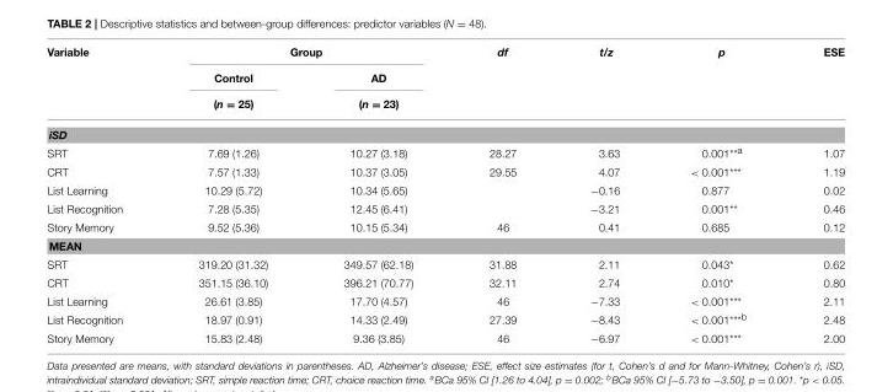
<table><thead><tr><td rowspan="3">Variable</td><td colspan="2">Group</td><td rowspan="3">df</td><td rowspan="3">t/z</td><td rowspan="3">p</td><td rowspan="3">ESE</td></tr><tr><td rowspan="2">Control (n = 25)</td><td rowspan="2">AD (n = 23)</td></tr><tr></tr></thead><tbody><tr><td colspan="7">iSD</td></tr><tr><td>SRT</td><td>7.69 (1.26)</td><td>10.27 (3.18)</td><td>28.27</td><td>3.63</td><td>0.001<sup>**a</sup></td><td>1.07</td></tr><tr><td>CRT</td><td>7.57 (1.33)</td><td>10.37 (3.05)</td><td>29.55</td><td>4.07</td><td>&lt; 0.001***</td><td>1.19</td></tr><tr><td>List Learning</td><td>10.29 (5.72)</td><td>10.34 (5.65)</td><td></td><td>−0.16</td><td>0.877</td><td>0.02</td></tr><tr><td>List Recognition</td><td>7.28 (5.35)</td><td>12.45 (6.41)</td><td></td><td>−3.21</td><td>0.001**</td><td>0.46</td></tr><tr><td>Story Memory</td><td>9.52 (5.36)</td><td>10.15 (5.34)</td><td>46</td><td>0.41</td><td>0.685</td><td>0.12</td></tr><tr><td colspan="7">MEAN</td></tr><tr><td>SRT</td><td>319.20 (31.32)</td><td>349.57 (62.18)</td><td>31.88</td><td>2.11</td><td>0.043*</td><td>0.62</td></tr><tr><td>CRT</td><td>351.15 (36.10)</td><td>396.21 (70.77)</td><td>32.11</td><td>2.74</td><td>0.010*</td><td>0.80</td></tr><tr><td>List Learning</td><td>26.61 (3.85)</td><td>17.70 (4.57)</td><td>46</td><td>−7.33</td><td>&lt; 0.001***</td><td>2.11</td></tr><tr><td>List Recognition</td><td>18.97 (0.91)</td><td>14.33 (2.49)</td><td>27.39</td><td>−8.43</td><td>&lt; 0.001<sup>***b</sup></td><td>2.48</td></tr><tr><td>Story Memory</td><td>15.83 (2.48)</td><td>9.36 (3.85)</td><td>46</td><td>−6.97</td><td>&lt; 0.001***</td><td>2.00</td></tr></tbody></table>